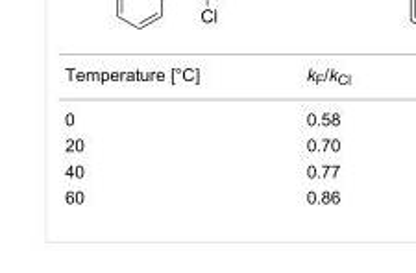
<table><tbody><tr><td>Temperature [°C]</td><td>k<sub>F</sub>/k<sub>Cl</sub></td></tr><tr><td>0</td><td>0.58</td></tr><tr><td>20</td><td>0.70</td></tr><tr><td>40</td><td>0.77</td></tr><tr><td>60</td><td>0.86</td></tr></tbody></table>